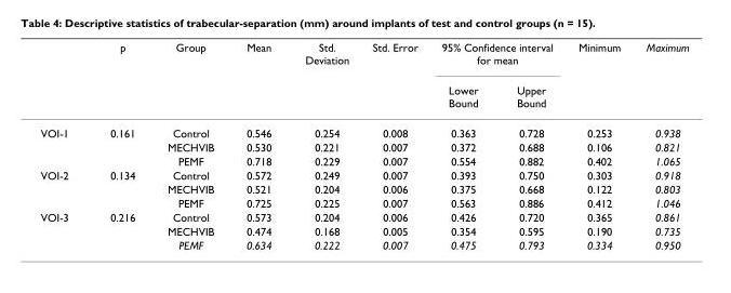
<table><thead><tr><td rowspan="2"></td><td rowspan="2">p</td><td rowspan="2">Group</td><td rowspan="2">Mean</td><td rowspan="2">Std. Deviation</td><td rowspan="2">Std. Error</td><td colspan="2">95% Confidence interval for mean</td><td rowspan="2">Minimum</td><td rowspan="2">Maximum</td></tr><tr><td>Lower Bound</td><td>Upper Bound</td></tr></thead><tbody><tr><td rowspan="3">VOI-1</td><td>0.161</td><td>Control</td><td>0.546</td><td>0.254</td><td>0.008</td><td>0.363</td><td>0.728</td><td>0.253</td><td>0.938</td></tr><tr><td></td><td>MECHVIB</td><td>0.530</td><td>0.221</td><td>0.007</td><td>0.372</td><td>0.688</td><td>0.106</td><td>0.821</td></tr><tr><td></td><td>PEMF</td><td>0.718</td><td>0.229</td><td>0.007</td><td>0.554</td><td>0.882</td><td>0.402</td><td>1.065</td></tr><tr><td rowspan="3">VOI-2</td><td>0.134</td><td>Control</td><td>0.572</td><td>0.249</td><td>0.007</td><td>0.393</td><td>0.750</td><td>0.303</td><td>0.918</td></tr><tr><td></td><td>MECHVIB</td><td>0.521</td><td>0.204</td><td>0.006</td><td>0.375</td><td>0.668</td><td>0.122</td><td>0.803</td></tr><tr><td></td><td>PEMF</td><td>0.725</td><td>0.225</td><td>0.007</td><td>0.563</td><td>0.886</td><td>0.412</td><td>1.046</td></tr><tr><td rowspan="3">VOI-3</td><td>0.216</td><td>Control</td><td>0.573</td><td>0.204</td><td>0.006</td><td>0.426</td><td>0.720</td><td>0.365</td><td>0.861</td></tr><tr><td></td><td>MECHVIB</td><td>0.474</td><td>0.168</td><td>0.005</td><td>0.354</td><td>0.595</td><td>0.190</td><td>0.735</td></tr><tr><td></td><td>PEMF</td><td>0.634</td><td>0.222</td><td>0.007</td><td>0.475</td><td>0.793</td><td>0.334</td><td>0.950</td></tr></tbody></table>